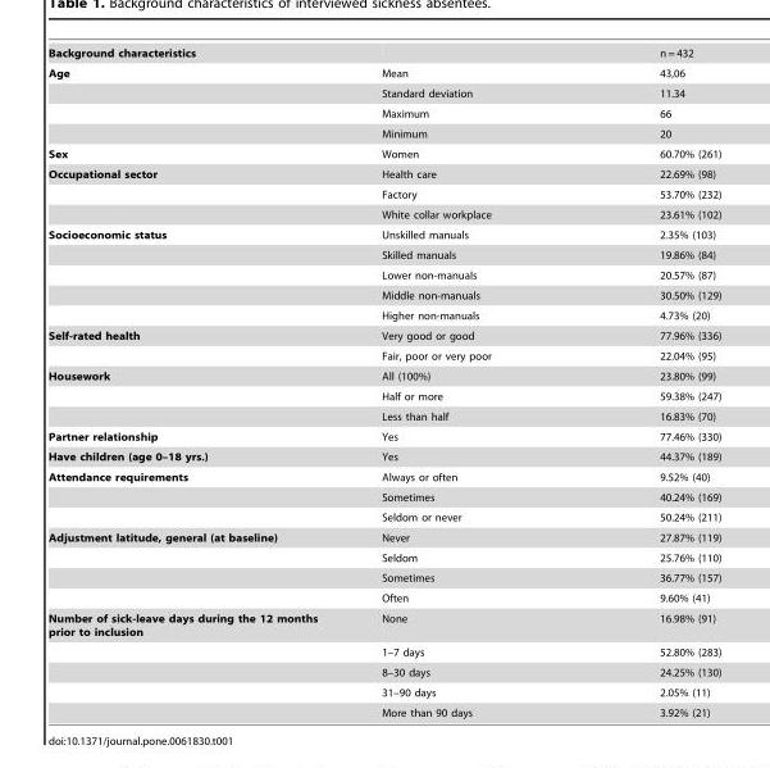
<table><tbody><tr><td>Background characteristics</td><td></td><td>n = 432</td></tr><tr><td rowspan="4">Age</td><td>Mean</td><td>43,06</td></tr><tr><td>Standard deviation</td><td>11.34</td></tr><tr><td>Maximum</td><td>66</td></tr><tr><td>Minimum</td><td>20</td></tr><tr><td>Sex</td><td>Women</td><td>60.70% (261)</td></tr><tr><td rowspan="3">Occupational sector</td><td>Health care</td><td>22.69% (98)</td></tr><tr><td>Factory</td><td>53.70% (232)</td></tr><tr><td>White collar workplace</td><td>23.61% (102)</td></tr><tr><td rowspan="5">Socioeconomic status</td><td>Unskilled manuals</td><td>2.35% (103)</td></tr><tr><td>Skilled manuals</td><td>19.86% (84)</td></tr><tr><td>Lower non-manuals</td><td>20.57% (87)</td></tr><tr><td>Middle non-manuals</td><td>30.50% (129)</td></tr><tr><td>Higher non-manuals</td><td>4.73% (20)</td></tr><tr><td rowspan="2">Self-rated health</td><td>Very good or good</td><td>77.96% (336)</td></tr><tr><td>Fair, poor or very poor</td><td>22.04% (95)</td></tr><tr><td rowspan="3">Housework</td><td>All (100%)</td><td>23.80% (99)</td></tr><tr><td>Half or more</td><td>59.38% (247)</td></tr><tr><td>Less than half</td><td>16.83% (70)</td></tr><tr><td>Partner relationship</td><td>Yes</td><td>77.46% (330)</td></tr><tr><td>Have children (age 0–18 yrs.)</td><td>Yes</td><td>44.37% (189)</td></tr><tr><td rowspan="3">Attendance requirements</td><td>Always or often</td><td>9.52% (40)</td></tr><tr><td>Sometimes</td><td>40.24% (169)</td></tr><tr><td>Seldom or never</td><td>50.24% (211)</td></tr><tr><td rowspan="4">Adjustment latitude, general (at baseline)</td><td>Never</td><td>27.87% (119)</td></tr><tr><td>Seldom</td><td>25.76% (110)</td></tr><tr><td>Sometimes</td><td>36.77% (157)</td></tr><tr><td>Often</td><td>9.60% (41)</td></tr><tr><td rowspan="5">Number of sick-leave days during the 12 months prior to inclusion</td><td>None</td><td>16.98% (91)</td></tr><tr><td>1–7 days</td><td>52.80% (283)</td></tr><tr><td>8–30 days</td><td>24.25% (130)</td></tr><tr><td>31–90 days</td><td>2.05% (11)</td></tr><tr><td>More than 90 days</td><td>3.92% (21)</td></tr></tbody></table>